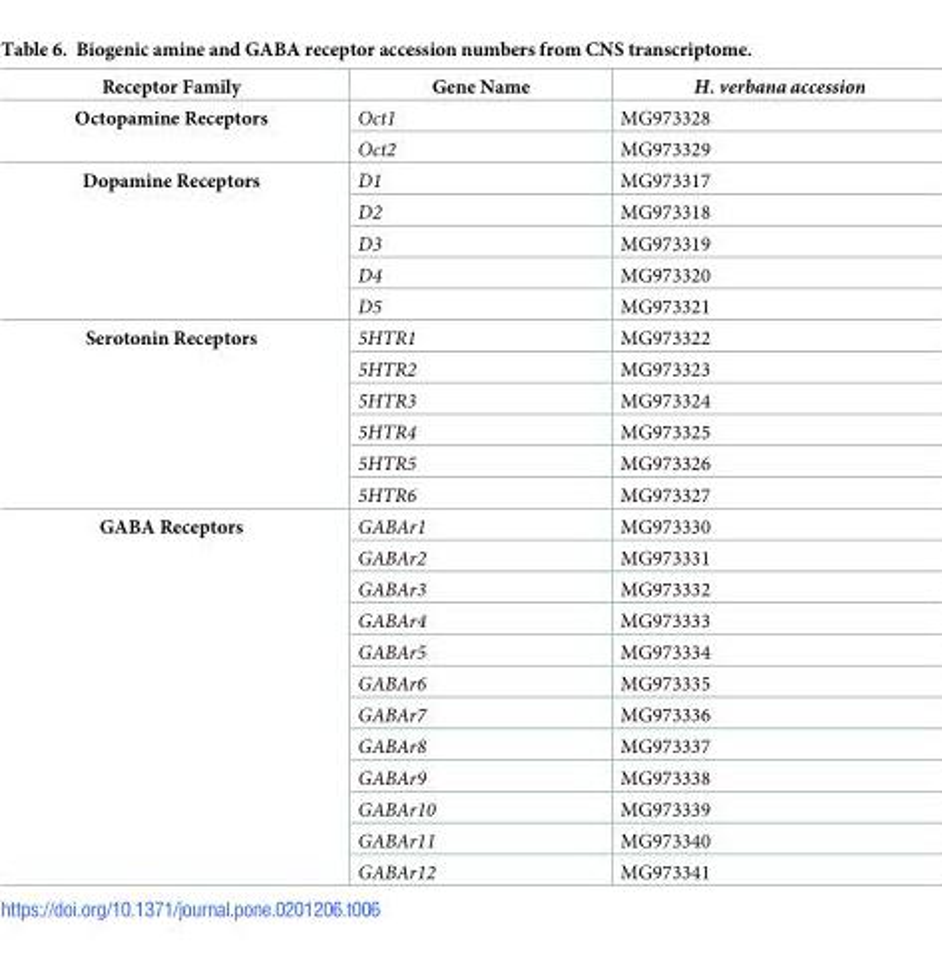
<table><thead><tr><td>Receptor Family</td><td>Gene Name</td><td>H. verbana accession</td></tr></thead><tbody><tr><td rowspan="2">Octopamine Receptors</td><td>Oct1</td><td>MG973328</td></tr><tr><td>Oct2</td><td>MG973329</td></tr><tr><td rowspan="5">Dopamine Receptors</td><td>D1</td><td>MG973317</td></tr><tr><td>D2</td><td>MG973318</td></tr><tr><td>D3</td><td>MG973319</td></tr><tr><td>D4</td><td>MG973320</td></tr><tr><td>D5</td><td>MG973321</td></tr><tr><td rowspan="6">Serotonin Receptors</td><td>5HTR1</td><td>MG973322</td></tr><tr><td>5HTR2</td><td>MG973323</td></tr><tr><td>5HTR3</td><td>MG973324</td></tr><tr><td>5HTR4</td><td>MG973325</td></tr><tr><td>5HTR5</td><td>MG973326</td></tr><tr><td>5HTR6</td><td>MG973327</td></tr><tr><td rowspan="12">GABA Receptors</td><td>GABAr1</td><td>MG973330</td></tr><tr><td>GABAr2</td><td>MG973331</td></tr><tr><td>GABAr3</td><td>MG973332</td></tr><tr><td>GABAr4</td><td>MG973333</td></tr><tr><td>GABAr5</td><td>MG973334</td></tr><tr><td>GABAr6</td><td>MG973335</td></tr><tr><td>GABAr7</td><td>MG973336</td></tr><tr><td>GABAr8</td><td>MG973337</td></tr><tr><td>GABAr9</td><td>MG973338</td></tr><tr><td>GABAr10</td><td>MG973339</td></tr><tr><td>GABAr11</td><td>MG973340</td></tr><tr><td>GABAr12</td><td>MG973341</td></tr></tbody></table>